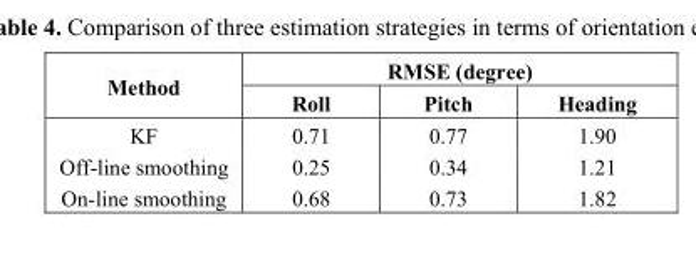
<table><thead><tr><td rowspan="2">Method</td><td colspan="3">RMSE (degree)</td></tr><tr><td>Roll</td><td>Pitch</td><td>Heading</td></tr></thead><tbody><tr><td>KF</td><td>0.71</td><td>0.77</td><td>1.90</td></tr><tr><td>Off-line smoothing</td><td>0.25</td><td>0.34</td><td>1.21</td></tr><tr><td>On-line smoothing</td><td>0.68</td><td>0.73</td><td>1.82</td></tr></tbody></table>